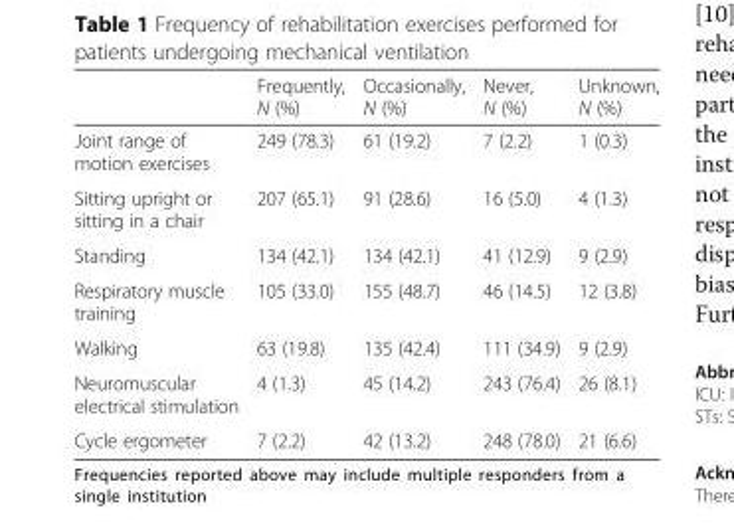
<table><thead><tr><td></td><td>Frequently, N (%)</td><td>Occasionally, N (%)</td><td>Never, N (%)</td><td>Unknown, N (%)</td></tr></thead><tbody><tr><td>Joint range of motion exercises</td><td>249 (78.3)</td><td>61 (19.2)</td><td>7 (2.2)</td><td>1 (0.3)</td></tr><tr><td>Sitting upright or sitting in a chair</td><td>207 (65.1)</td><td>91 (28.6)</td><td>16 (5.0)</td><td>4 (1.3)</td></tr><tr><td>Standing</td><td>134 (42.1)</td><td>134 (42.1)</td><td>41 (12.9)</td><td>9 (2.9)</td></tr><tr><td>Respiratory muscle training</td><td>105 (33.0)</td><td>155 (48.7)</td><td>46 (14.5)</td><td>12 (3.8)</td></tr><tr><td>Walking</td><td>63 (19.8)</td><td>135 (42.4)</td><td>111 (34.9)</td><td>9 (2.9)</td></tr><tr><td>Neuromuscular electrical stimulation</td><td>4 (1.3)</td><td>45 (14.2)</td><td>243 (76.4)</td><td>26 (8.1)</td></tr><tr><td>Cycle ergometer</td><td>7 (2.2)</td><td>42 (13.2)</td><td>248 (78.0)</td><td>21 (6.6)</td></tr></tbody></table>